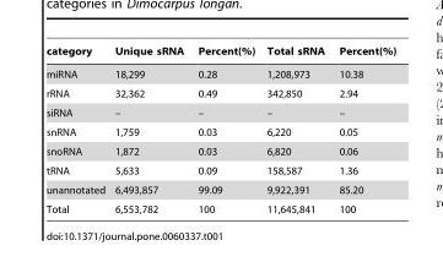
<table><thead><tr><td>category</td><td>Unique sRNA</td><td>Percent(%)</td><td>Total sRNA</td><td>Percent(%)</td></tr></thead><tbody><tr><td>miRNA</td><td>18,299</td><td>0.28</td><td>1,208,973</td><td>10.38</td></tr><tr><td>rRNA</td><td>32,362</td><td>0.49</td><td>342,850</td><td>2.94</td></tr><tr><td>siRNA</td><td>–</td><td>–</td><td>–</td><td>–</td></tr><tr><td>snRNA</td><td>1,759</td><td>0.03</td><td>6,220</td><td>0.05</td></tr><tr><td>snoRNA</td><td>1,872</td><td>0.03</td><td>6,820</td><td>0.06</td></tr><tr><td>tRNA</td><td>5,633</td><td>0.09</td><td>158,587</td><td>1.36</td></tr><tr><td>unannotated</td><td>6,493,857</td><td>99.09</td><td>9,922,391</td><td>85.20</td></tr><tr><td>Total</td><td>6,553,782</td><td>100</td><td>11,645,841</td><td>100</td></tr></tbody></table>